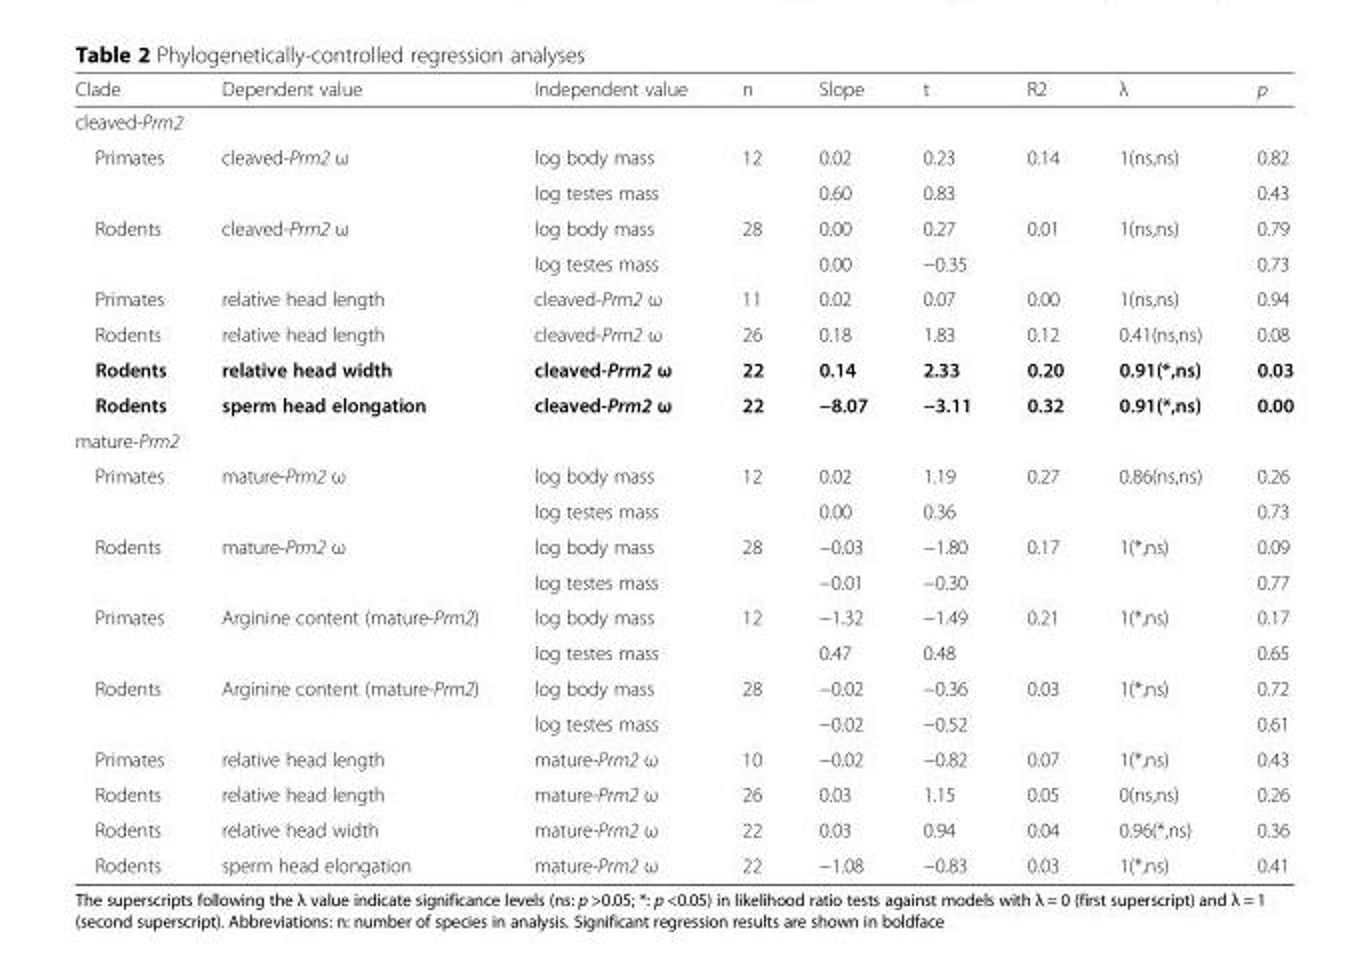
<table><thead><tr><td>Clade</td><td>Dependent value</td><td>Independent value</td><td>n</td><td>Slope</td><td>t</td><td>R2</td><td>λ</td><td>p</td></tr></thead><tbody><tr><td colspan="9">cleaved-Prm2</td></tr><tr><td rowspan="2">Primates</td><td rowspan="2">cleaved-Prm2 ω</td><td>log body mass</td><td rowspan="2">12</td><td>0.02</td><td>0.23</td><td rowspan="2">0.14</td><td rowspan="2">1(ns,ns)</td><td>0.82</td></tr><tr><td>log testes mass</td><td>0.60</td><td>0.83</td><td>0.43</td></tr><tr><td rowspan="2">Rodents</td><td rowspan="2">cleaved-Prm2 ω</td><td>log body mass</td><td rowspan="2">28</td><td>0.00</td><td>0.27</td><td rowspan="2">0.01</td><td rowspan="2">1(ns,ns)</td><td>0.79</td></tr><tr><td>log testes mass</td><td>0.00</td><td>−0.35</td><td>0.73</td></tr><tr><td>Primates</td><td>relative head length</td><td>cleaved-Prm2 ω</td><td>11</td><td>0.02</td><td>0.07</td><td>0.00</td><td>1(ns,ns)</td><td>0.94</td></tr><tr><td>Rodents</td><td>relative head length</td><td>cleaved-Prm2 ω</td><td>26</td><td>0.18</td><td>1.83</td><td>0.12</td><td>0.41(ns,ns)</td><td>0.08</td></tr><tr><td>Rodents</td><td>relative head width</td><td>cleaved-Prm2 ω</td><td>22</td><td>0.14</td><td>2.33</td><td>0.20</td><td>0.91(*,ns)</td><td>0.03</td></tr><tr><td>Rodents</td><td>sperm head elongation</td><td>cleaved-Prm2 ω</td><td>22</td><td>−8.07</td><td>−3.11</td><td>0.32</td><td>0.91(*,ns)</td><td>0.00</td></tr><tr><td colspan="9">mature-Prm2</td></tr><tr><td rowspan="2">Primates</td><td rowspan="2">mature-Prm2 ω</td><td>log body mass</td><td rowspan="2">12</td><td>0.02</td><td>1.19</td><td rowspan="2">0.27</td><td rowspan="2">0.86(ns,ns)</td><td>0.26</td></tr><tr><td>log testes mass</td><td>0.00</td><td>0.36</td><td>0.73</td></tr><tr><td rowspan="2">Rodents</td><td rowspan="2">mature-Prm2 ω</td><td>log body mass</td><td rowspan="2">28</td><td>−0.03</td><td>−1.80</td><td rowspan="2">0.17</td><td rowspan="2">1(*,ns)</td><td>0.09</td></tr><tr><td>log testes mass</td><td>−0.01</td><td>−0.30</td><td>0.77</td></tr><tr><td rowspan="2">Primates</td><td rowspan="2">Arginine content (mature-Prm2)</td><td>log body mass</td><td rowspan="2">12</td><td>−1.32</td><td>−1.49</td><td rowspan="2">0.21</td><td rowspan="2">1(*,ns)</td><td>0.17</td></tr><tr><td>log testes mass</td><td>0.47</td><td>0.48</td><td>0.65</td></tr><tr><td rowspan="2">Rodents</td><td rowspan="2">Arginine content (mature-Prm2)</td><td>log body mass</td><td rowspan="2">28</td><td>−0.02</td><td>−0.36</td><td rowspan="2">0.03</td><td rowspan="2">1(*,ns)</td><td>0.72</td></tr><tr><td>log testes mass</td><td>−0.02</td><td>−0.52</td><td>0.61</td></tr><tr><td>Primates</td><td>relative head length</td><td>mature-Prm2 ω</td><td>10</td><td>−0.02</td><td>−0.82</td><td>0.07</td><td>1(*,ns)</td><td>0.43</td></tr><tr><td>Rodents</td><td>relative head length</td><td>mature-Prm2 ω</td><td>26</td><td>0.03</td><td>1.15</td><td>0.05</td><td>0(ns,ns)</td><td>0.26</td></tr><tr><td>Rodents</td><td>relative head width</td><td>mature-Prm2 ω</td><td>22</td><td>0.03</td><td>0.94</td><td>0.04</td><td>0.96(*,ns)</td><td>0.36</td></tr><tr><td>Rodents</td><td>sperm head elongation</td><td>mature-Prm2 ω</td><td>22</td><td>−1.08</td><td>−0.83</td><td>0.03</td><td>1(*,ns)</td><td>0.41</td></tr></tbody></table>